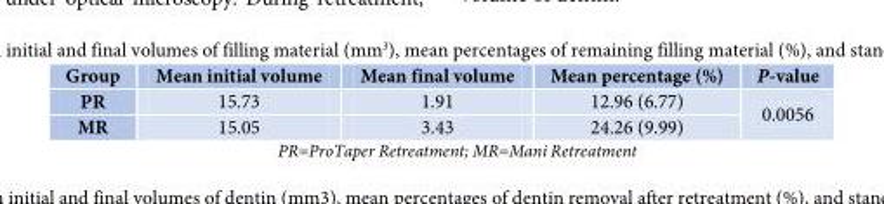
<table><thead><tr><td>Group</td><td>Mean initial volume</td><td>Mean final volume</td><td>Mean percentage (%)</td><td>P-value</td></tr></thead><tbody><tr><td>PR</td><td>15.73</td><td>1.91</td><td>12.96 (6.77)</td><td rowspan="2">0.0056</td></tr><tr><td>MR</td><td>15.05</td><td>3.43</td><td>24.26 (9.99)</td></tr></tbody></table>